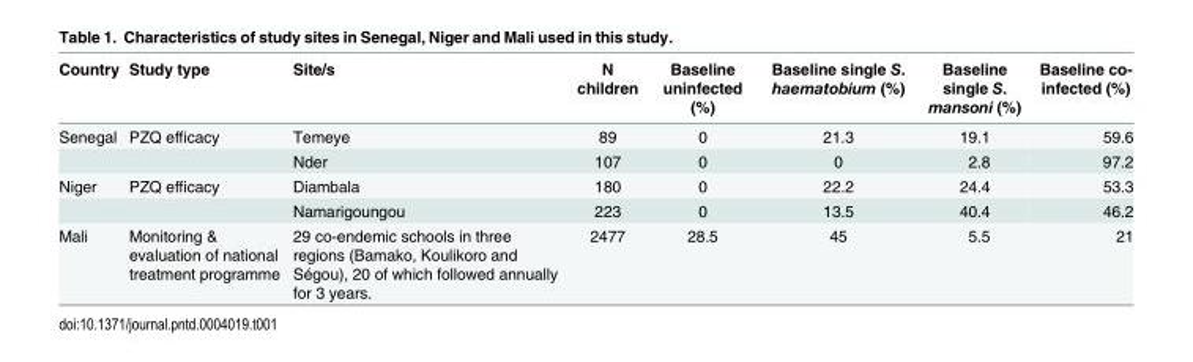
<table><thead><tr><td>Country</td><td>Study type</td><td>Site/s</td><td>N children</td><td>Baseline uninfected (%)</td><td>Baseline single S. haematobium (%)</td><td>Baseline single S. mansoni (%)</td><td>Baseline co- infected (%)</td></tr></thead><tbody><tr><td rowspan="2">Senegal</td><td>PZQ efficacy</td><td>Temeye</td><td>89</td><td>0</td><td>21.3</td><td>19.1</td><td>59.6</td></tr><tr><td></td><td>Nder</td><td>107</td><td>0</td><td>0</td><td>2.8</td><td>97.2</td></tr><tr><td rowspan="2">Niger</td><td>PZQ efficacy</td><td>Diambala</td><td>180</td><td>0</td><td>22.2</td><td>24.4</td><td>53.3</td></tr><tr><td></td><td>Namarigoungou</td><td>223</td><td>0</td><td>13.5</td><td>40.4</td><td>46.2</td></tr><tr><td>Mali</td><td>Monitoring &amp; evaluation of national treatment programme</td><td>29 co-endemic schools in three regions (Bamako, Koulikoro and Ségou), 20 of which followed annually for 3 years.</td><td>2477</td><td>28.5</td><td>45</td><td>5.5</td><td>21</td></tr></tbody></table>